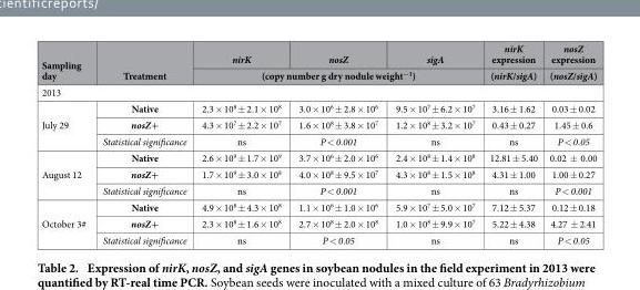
<table><thead><tr><td rowspan="2">Sampling day</td><td rowspan="2">Treatment</td><td>nirK</td><td>nosZ</td><td>sigA</td><td rowspan="2">nirK expression (nirK/sigA)</td><td rowspan="2">nosZ expression (nosZ/sigA)</td></tr><tr><td colspan="3">(copy number g dry nodule weight<sup>−1</sup>)</td></tr></thead><tbody><tr><td colspan="7">2013</td></tr><tr><td rowspan="3">July 29</td><td>Native</td><td>2.3 × 10<sup>8</sup> ± 2.1 × 10<sup>8</sup></td><td>3.0 × 10<sup>6</sup> ± 2.8 × 10<sup>6</sup></td><td>9.5 × 10<sup>7</sup> ± 6.2 × 10<sup>7</sup></td><td>3.16 ± 1.62</td><td>0.03 ± 0.02</td></tr><tr><td>nosZ+</td><td>4.3 × 10<sup>7</sup> ± 2.2 × 10<sup>7</sup></td><td>1.6 × 10<sup>8</sup> ± 3.8 × 10<sup>7</sup></td><td>1.2 × 10<sup>8</sup> ± 3.2 × 10<sup>7</sup></td><td>0.43 ± 0.27</td><td>1.45 ± 0.6</td></tr><tr><td>Statistical significance</td><td>ns</td><td>P &lt; 0.001</td><td>ns</td><td>ns</td><td>P &lt; 0.05</td></tr><tr><td rowspan="3">August 12</td><td>Native</td><td>2.6 × 10<sup>9</sup> ± 1.7 × 10<sup>9</sup></td><td>3.7 × 10<sup>6</sup> ± 2.0 × 10<sup>6</sup></td><td>2.4 × 10<sup>8</sup> ± 1.4 × 10<sup>8</sup></td><td>12.81 ± 5.40</td><td>0.02 ± 0.00</td></tr><tr><td>nosZ+</td><td>1.7 × 10<sup>9</sup> ± 3.0 × 10<sup>8</sup></td><td>4.0 × 10<sup>8</sup> ± 9.5 × 10<sup>7</sup></td><td>4.3 × 10<sup>8</sup> ± 1.5 × 10<sup>8</sup></td><td>4.31 ± 1.00</td><td>1.00 ± 0.27</td></tr><tr><td>Statistical significance</td><td>ns</td><td>P &lt; 0.001</td><td>ns</td><td>ns</td><td>P &lt; 0.001</td></tr><tr><td rowspan="3">October 3#</td><td>Native</td><td>4.9 × 10<sup>8</sup> ± 4.3 × 10<sup>8</sup></td><td>1.1 × 10<sup>6</sup> ± 1.0 × 10<sup>6</sup></td><td>5.9 × 10<sup>7</sup> ± 5.0 × 10<sup>7</sup></td><td>7.12 ± 5.37</td><td>0.12 ± 0.18</td></tr><tr><td>nosZ+</td><td>2.3 × 10<sup>8</sup> ± 1.6 × 10<sup>8</sup></td><td>2.7 × 10<sup>8</sup> ± 2.0 × 10<sup>8</sup></td><td>1.0 × 10<sup>8</sup> ± 9.9 × 10<sup>7</sup></td><td>5.22 ± 4.38</td><td>4.27 ± 2.41</td></tr><tr><td>Statistical significance</td><td>ns</td><td>P &lt; 0.05</td><td>ns</td><td>ns</td><td>P &lt; 0.05</td></tr></tbody></table>